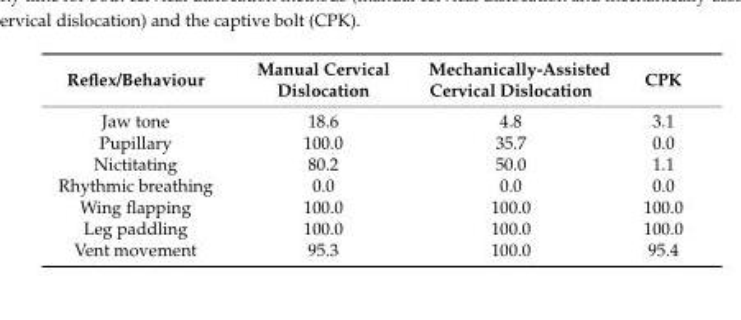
<table><thead><tr><td>Reflex/Behaviour</td><td>Manual Cervical Dislocation</td><td>Mechanically-Assisted Cervical Dislocation</td><td>CPK</td></tr></thead><tbody><tr><td>Jaw tone</td><td>18.6</td><td>4.8</td><td>3.1</td></tr><tr><td>Pupillary</td><td>100.0</td><td>35.7</td><td>0.0</td></tr><tr><td>Nictitating</td><td>80.2</td><td>50.0</td><td>1.1</td></tr><tr><td>Rhythmic breathing</td><td>0.0</td><td>0.0</td><td>0.0</td></tr><tr><td>Wing flapping</td><td>100.0</td><td>100.0</td><td>100.0</td></tr><tr><td>Leg paddling</td><td>100.0</td><td>100.0</td><td>100.0</td></tr><tr><td>Vent movement</td><td>95.3</td><td>100.0</td><td>95.4</td></tr></tbody></table>